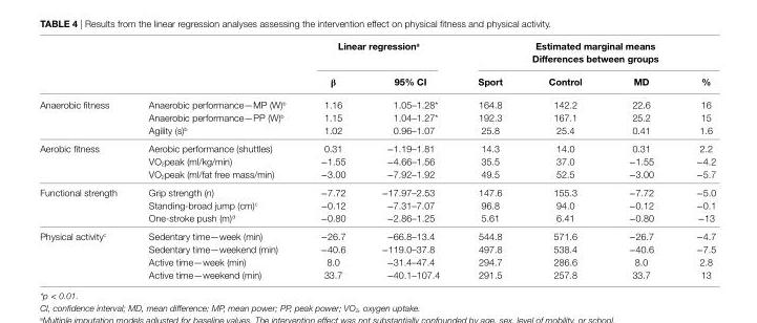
<table><thead><tr><td rowspan="2"></td><td rowspan="2"></td><td colspan="2">linear regression<sup>a</sup></td><td colspan="4">Estimated marginal means Differences between groups</td></tr><tr><td>β</td><td>95% Ci</td><td>Sport</td><td>Control</td><td>MD</td><td>%</td></tr></thead><tbody><tr><td>Anaerobic fitness</td><td>Anaerobic performance—MP (W)<sup>b</sup> Anaerobic performance—PP (W)<sup>b</sup> Agility (s)<sup>b</sup></td><td>1.16 1.15 1.02</td><td>1.05–1.28* 1.04–1.27* 0.96–1.07</td><td>164.8 192.3 25.8</td><td>142.2 167.1 25.4</td><td>22.6 25.2 0.41</td><td>16 15 1.6</td></tr><tr><td>Aerobic fitness</td><td>Aerobic performance (shuttles) VO<sub>2</sub>peak (ml/kg/min) VO<sub>2</sub>peak (ml/fat free mass/min)</td><td>0.31 −1.55 −3.00</td><td>−1.19–1.81 −4.66–1.56 −7.92–1.92</td><td>14.3 35.5 49.5</td><td>14.0 37.0 52.5</td><td>0.31 −1.55 −3.00</td><td>2.2 −4.2 −5.7</td></tr><tr><td>Functional strength</td><td>Grip strength (n) Standing-broad jump (cm)<sup>c</sup> One-stroke push (m)<sup>d</sup></td><td>−7.72 −0.12 −0.80</td><td>−17.97–2.53 −7.31–7.07 −2.86–1.25</td><td>147.6 96.8 5.61</td><td>155.3 94.0 6.41</td><td>−7.72 −0.12 −0.80</td><td>−5.0 −0.1 −13</td></tr><tr><td>Physical activity<sup>c</sup></td><td>Sedentary time—week (min) Sedentary time—weekend (min) Active time—week (min) Active time—weekend (min)</td><td>−26.7 −40.6 8.0 33.7</td><td>−66.8–13.4 −119.0–37.8 −31.4–47.4 −40.1–107.4</td><td>544.8 497.8 294.7 291.5</td><td>571.6 538.4 286.6 257.8</td><td>−26.7 −40.6 8.0 33.7</td><td>−4.7 −7.5 2.8 13</td></tr></tbody></table>